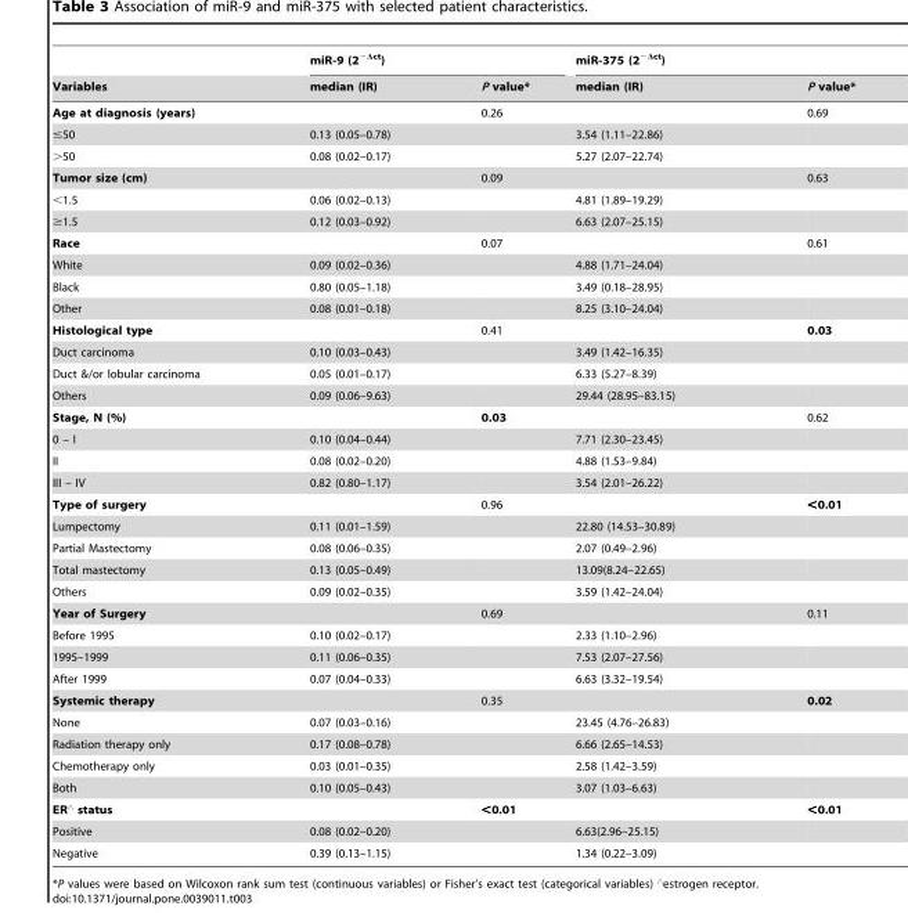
<table><thead><tr><td rowspan="2">Variables</td><td colspan="2">miR-9 (2<sup>−Δct</sup>)</td><td colspan="2">miR-375 (2<sup>−Δct</sup>)</td></tr><tr><td>median (IR)</td><td>P value*</td><td>median (IR)</td><td>P value*</td></tr></thead><tbody><tr><td>Age at diagnosis (years)</td><td></td><td>0.26</td><td></td><td>0.69</td></tr><tr><td>≤50</td><td>0.13 (0.05–0.78)</td><td></td><td>3.54 (1.11–22.86)</td><td></td></tr><tr><td>&gt;50</td><td>0.08 (0.02–0.17)</td><td></td><td>5.27 (2.07–22.74)</td><td></td></tr><tr><td>Tumor size (cm)</td><td></td><td>0.09</td><td></td><td>0.63</td></tr><tr><td>&lt;1.5</td><td>0.06 (0.02–0.13)</td><td></td><td>4.81 (1.89–19.29)</td><td></td></tr><tr><td>≥1.5</td><td>0.12 (0.03–0.92)</td><td></td><td>6.63 (2.07–25.15)</td><td></td></tr><tr><td>Race</td><td></td><td>0.07</td><td></td><td>0.61</td></tr><tr><td>White</td><td>0.09 (0.02–0.36)</td><td></td><td>4.88 (1.71–24.04)</td><td></td></tr><tr><td>Black</td><td>0.80 (0.05–1.18)</td><td></td><td>3.49 (0.18–28.95)</td><td></td></tr><tr><td>Other</td><td>0.08 (0.01–0.18)</td><td></td><td>8.25 (3.10–24.04)</td><td></td></tr><tr><td>Histological type</td><td></td><td>0.41</td><td></td><td>0.03</td></tr><tr><td>Duct carcinoma</td><td>0.10 (0.03–0.43)</td><td></td><td>3.49 (1.42–16.35)</td><td></td></tr><tr><td>Duct &amp;/or lobular carcinoma</td><td>0.05 (0.01–0.17)</td><td></td><td>6.33 (5.27–8.39)</td><td></td></tr><tr><td>Others</td><td>0.09 (0.06–9.63)</td><td></td><td>29.44 (28.95–83.15)</td><td></td></tr><tr><td>Stage, N (%)</td><td></td><td>0.03</td><td></td><td>0.62</td></tr><tr><td>0 – I</td><td>0.10 (0.04–0.44)</td><td></td><td>7.71 (2.30–23.45)</td><td></td></tr><tr><td>II</td><td>0.08 (0.02–0.20)</td><td></td><td>4.88 (1.53–9.84)</td><td></td></tr><tr><td>III – IV</td><td>0.82 (0.80–1.17)</td><td></td><td>3.54 (2.01–26.22)</td><td></td></tr><tr><td>Type of surgery</td><td></td><td>0.96</td><td></td><td>&lt;0.01</td></tr><tr><td>Lumpectomy</td><td>0.11 (0.01–1.59)</td><td></td><td>22.80 (14.53–30.89)</td><td></td></tr><tr><td>Partial Mastectomy</td><td>0.08 (0.06–0.35)</td><td></td><td>2.07 (0.49–2.96)</td><td></td></tr><tr><td>Total mastectomy</td><td>0.13 (0.05–0.49)</td><td></td><td>13.09(8.24–22.65)</td><td></td></tr><tr><td>Others</td><td>0.09 (0.02–0.35)</td><td></td><td>3.59 (1.42–24.04)</td><td></td></tr><tr><td>Year of Surgery</td><td></td><td>0.69</td><td></td><td>0.11</td></tr><tr><td>Before 1995</td><td>0.10 (0.02–0.17)</td><td></td><td>2.33 (1.10–2.96)</td><td></td></tr><tr><td>1995–1999</td><td>0.11 (0.06–0.35)</td><td></td><td>7.53 (2.07–27.56)</td><td></td></tr><tr><td>After 1999</td><td>0.07 (0.04–0.33)</td><td></td><td>6.63 (3.32–19.54)</td><td></td></tr><tr><td>Systemic therapy</td><td></td><td>0.35</td><td></td><td>0.02</td></tr><tr><td>None</td><td>0.07 (0.03–0.16)</td><td></td><td>23.45 (4.76–26.83)</td><td></td></tr><tr><td>Radiation therapy only</td><td>0.17 (0.08–0.78)</td><td></td><td>6.66 (2.65–14.53)</td><td></td></tr><tr><td>Chemotherapy only</td><td>0.03 (0.01–0.35)</td><td></td><td>2.58 (1.42–3.59)</td><td></td></tr><tr><td>Both</td><td>0.10 (0.05–0.43)</td><td></td><td>3.07 (1.03–6.63)</td><td></td></tr><tr><td>ER‘ status</td><td></td><td>&lt;0.01</td><td></td><td>&lt;0.01</td></tr><tr><td>Positive</td><td>0.08 (0.02–0.20)</td><td></td><td>6.63(2.96–25.15)</td><td></td></tr><tr><td>Negative</td><td>0.39 (0.13–1.15)</td><td></td><td>1.34 (0.22–3.09)</td><td></td></tr></tbody></table>